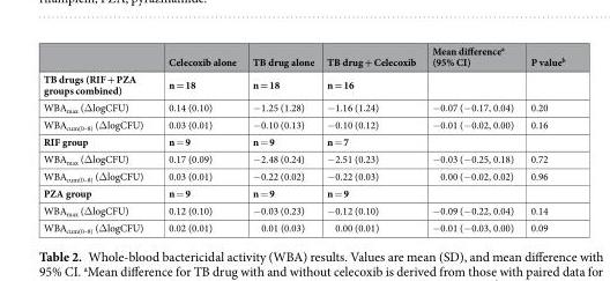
<table><thead><tr><td></td><td>Celecoxib alone</td><td>TB drug alone</td><td>TB drug + Celecoxib</td><td>Mean difference<sup>a</sup> (95% CI)</td><td>P value<sup>b</sup></td></tr></thead><tbody><tr><td>TB drugs (RIF + PZA groups combined)</td><td>n = 18</td><td>n = 18</td><td>n = 16</td><td></td><td></td></tr><tr><td>WBA<sub>max</sub> (ΔlogCFU)</td><td>0.14 (0.10)</td><td>−1.25 (1.28)</td><td>−1.16 (1.24)</td><td>−0.07 (−0.17, 0.04)</td><td>0.20</td></tr><tr><td>WBA<sub>cum(0–8)</sub> (ΔlogCFU)</td><td>0.03 (0.01)</td><td>−0.10 (0.13)</td><td>−0.10 (0.12)</td><td>−0.01 (−0.02, 0.00)</td><td>0.16</td></tr><tr><td>RIF group</td><td>n = 9</td><td>n = 9</td><td>n = 7</td><td></td><td></td></tr><tr><td>WBA<sub>max</sub> (ΔlogCFU)</td><td>0.17 (0.09)</td><td>−2.48 (0.24)</td><td>−2.51 (0.23)</td><td>−0.03 (−0.25, 0.18)</td><td>0.72</td></tr><tr><td>WBA<sub>cum(0–8)</sub> (ΔlogCFU)</td><td>0.03 (0.01)</td><td>−0.22 (0.02)</td><td>−0.22 (0.03)</td><td>0.00 (−0.02, 0.02)</td><td>0.96</td></tr><tr><td>PZA group</td><td>n = 9</td><td>n = 9</td><td>n = 9</td><td></td><td></td></tr><tr><td>WBA<sub>max</sub> (ΔlogCFU)</td><td>0.12 (0.10)</td><td>−0.03 (0.23)</td><td>−0.12 (0.10)</td><td>−0.09 (−0.22, 0.04)</td><td>0.14</td></tr><tr><td>WBA<sub>cum(0–8)</sub> (ΔlogCFU)</td><td>0.02 (0.01)</td><td>0.01 (0.03)</td><td>0.00 (0.01)</td><td>−0.01 (−0.03, 0.00)</td><td>0.09</td></tr></tbody></table>